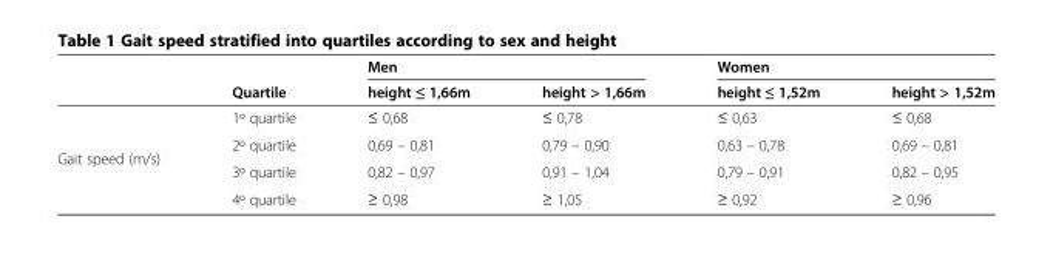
<table><thead><tr><td rowspan="2"></td><td rowspan="2">Quartile</td><td colspan="2">Men</td><td colspan="2">Women</td></tr><tr><td>height ≤ 1,66m</td><td>height &gt; 1,66m</td><td>height ≤ 1,52m</td><td>height &gt; 1,52m</td></tr></thead><tbody><tr><td rowspan="4">Gait speed (m/s)</td><td>1º quartile</td><td>≤ 0,68</td><td>≤ 0,78</td><td>≤ 0,63</td><td>≤ 0,68</td></tr><tr><td>2º quartile</td><td>0,69 – 0,81</td><td>0,79 – 0,90</td><td>0,63 – 0,78</td><td>0,69 – 0,81</td></tr><tr><td>3º quartile</td><td>0,82 – 0,97</td><td>0,91 – 1,04</td><td>0,79 – 0,91</td><td>0,82 – 0,95</td></tr><tr><td>4º quartile</td><td>≥ 0,98</td><td>≥ 1,05</td><td>≥ 0,92</td><td>≥ 0,96</td></tr></tbody></table>